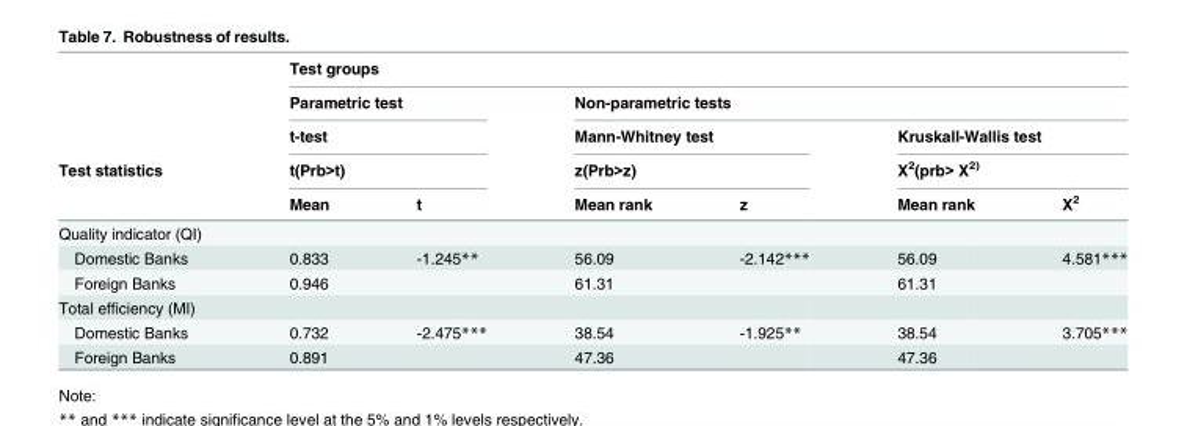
<table><thead><tr><td rowspan="5">Test statistics</td><td colspan="6">Test groups</td></tr><tr><td rowspan="3" colspan="2">Parametric test t-test t(Prb&gt;t)</td><td colspan="4">Non-parametric tests</td></tr><tr><td rowspan="2" colspan="2">Mann-Whitney test z(Prb&gt;z)</td><td rowspan="2" colspan="2">Kruskall-Wallis test X<sup>2</sup>(prb&gt; X<sup>2)</sup></td></tr><tr></tr><tr><td>Mean</td><td>t</td><td>Mean rank</td><td>z</td><td>Mean rank</td><td>X<sup>2</sup></td></tr></thead><tbody><tr><td colspan="7">Quality indicator (QI)</td></tr><tr><td>Domestic Banks</td><td>0.833</td><td>-1.245**</td><td>56.09</td><td>-2.142***</td><td>56.09</td><td>4.581***</td></tr><tr><td>Foreign Banks</td><td>0.946</td><td></td><td>61.31</td><td></td><td>61.31</td><td></td></tr><tr><td colspan="7">Total efficiency (MI)</td></tr><tr><td>Domestic Banks</td><td>0.732</td><td>-2.475***</td><td>38.54</td><td>-1.925**</td><td>38.54</td><td>3.705***</td></tr><tr><td>Foreign Banks</td><td>0.891</td><td></td><td>47.36</td><td></td><td>47.36</td><td></td></tr></tbody></table>